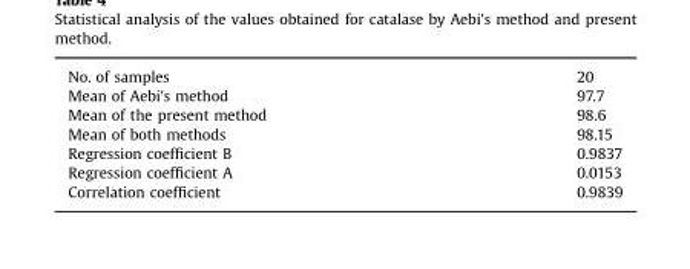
<table><tbody><tr><td>No. of samples</td><td>20</td></tr><tr><td>Mean of Aebi&#x27;s method</td><td>97.7</td></tr><tr><td>Mean of the present method</td><td>98.6</td></tr><tr><td>Mean of both methods</td><td>98.15</td></tr><tr><td>Regression coefficient B</td><td>0.9837</td></tr><tr><td>Regression coefficient A</td><td>0.0153</td></tr><tr><td>Correlation coefficient</td><td>0.9839</td></tr></tbody></table>